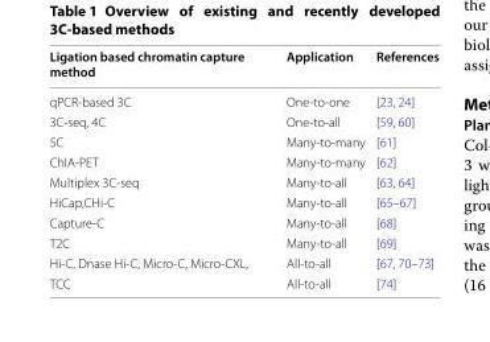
<table><thead><tr><td>Ligation based chromatin capture method</td><td>Application</td><td>References</td></tr></thead><tbody><tr><td>qPCR-based 3C</td><td>One-to-one</td><td>[23, 24]</td></tr><tr><td>3C-seq, 4C</td><td>One-to-all</td><td>[59, 60]</td></tr><tr><td>5C</td><td>Many-to-many</td><td>[61]</td></tr><tr><td>ChIA-PET</td><td>Many-to-many</td><td>[62]</td></tr><tr><td>Multiplex 3C-seq</td><td>Many-to-all</td><td>[63, 64]</td></tr><tr><td>HiCap,CHi-C</td><td>Many-to-all</td><td>[65–67]</td></tr><tr><td>Capture-C</td><td>Many-to-all</td><td>[68]</td></tr><tr><td>T2C</td><td>Many-to-all</td><td>[69]</td></tr><tr><td>Hi-C, Dnase Hi-C, Micro-C, Micro-CXL,</td><td>All-to-all</td><td>[67, 70–73]</td></tr><tr><td>TCC</td><td>All-to-all</td><td>[74]</td></tr></tbody></table>